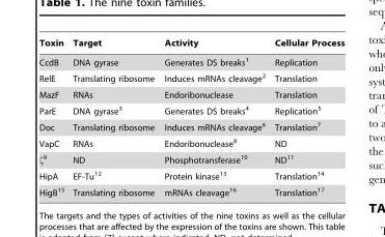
<table><thead><tr><td>Toxin</td><td>Target</td><td>Activity</td><td>Cellular Process</td></tr></thead><tbody><tr><td>CcdB</td><td>DNA gyrase</td><td>Generates DS breaks<sup>1</sup></td><td>Replication</td></tr><tr><td>RelE</td><td>Translating ribosome</td><td>Induces mRNAs cleavage<sup>2</sup></td><td>Translation</td></tr><tr><td>MazF</td><td>RNAs</td><td>Endoribonuclease</td><td>Translation</td></tr><tr><td>ParE</td><td>DNA gyrase<sup>3</sup></td><td>Generates DS breaks<sup>4</sup></td><td>Replication<sup>5</sup></td></tr><tr><td>Doc</td><td>Translating ribosome</td><td>Induces mRNAs cleavage<sup>6</sup></td><td>Translation<sup>7</sup></td></tr><tr><td>VapC</td><td>RNAs</td><td>Endoribonuclease<sup>8</sup></td><td>ND</td></tr><tr><td>ζ<sup>9</sup></td><td>ND</td><td>Phosphotransferase<sup>10</sup></td><td>ND<sup>11</sup></td></tr><tr><td>HipA</td><td>EF-Tu<sup>12</sup></td><td>Protein kinase<sup>13</sup></td><td>Translation<sup>14</sup></td></tr><tr><td>HigB<sup>15</sup></td><td>Translating ribosome</td><td>mRNAs cleavage<sup>16</sup></td><td>Translation<sup>17</sup></td></tr></tbody></table>